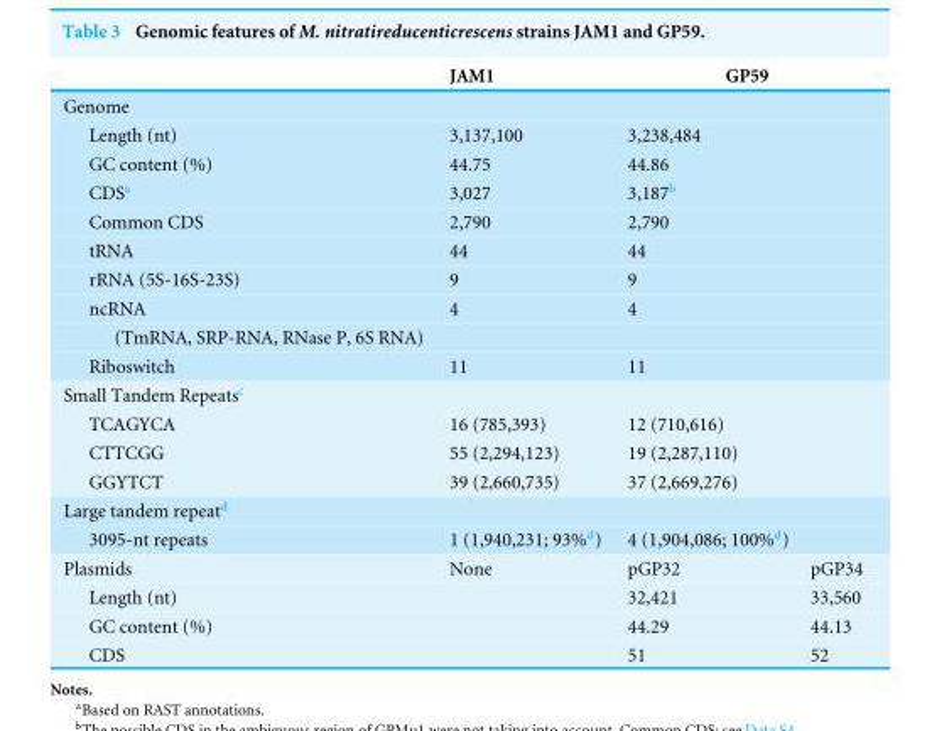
<table><thead><tr><td rowspan="2">Genome</td><td rowspan="2">JAM1</td><td colspan="2">GP59</td></tr><tr><td></td><td></td></tr></thead><tbody><tr><td>Length (nt)</td><td>3,137,100</td><td>3,238,484</td><td></td></tr><tr><td>GC content (%)</td><td>44.75</td><td>44.86</td><td></td></tr><tr><td>CDS<sup>a</sup></td><td>3,027</td><td>3,187<sup>b</sup></td><td></td></tr><tr><td>Common CDS</td><td>2,790</td><td>2,790</td><td></td></tr><tr><td>tRNA</td><td>44</td><td>44</td><td></td></tr><tr><td>rRNA (5S-16S-23S)</td><td>9</td><td>9</td><td></td></tr><tr><td>ncRNA</td><td>4</td><td>4</td><td></td></tr><tr><td colspan="4">(TmRNA, SRP-RNA, RNase P, 6S RNA)</td></tr><tr><td>Riboswitch</td><td>11</td><td>11</td><td></td></tr><tr><td colspan="4">Small Tandem Repeats<sup>c</sup></td></tr><tr><td>TCAGYCA</td><td>16 (785,393)</td><td>12 (710,616)</td><td></td></tr><tr><td>CTTCGG</td><td>55 (2,294,123)</td><td>19 (2,287,110)</td><td></td></tr><tr><td>GGYTCT</td><td>39 (2,660,735)</td><td>37 (2,669,276)</td><td></td></tr><tr><td colspan="4">Large tandem repeat<sup>d</sup></td></tr><tr><td>3095-nt repeats</td><td>1 (1,940,231; 93%<sup>d</sup>)</td><td>4 (1,904,086; 100%<sup>d</sup>)</td><td></td></tr><tr><td>Plasmids</td><td>None</td><td>pGP32</td><td>pGP34</td></tr><tr><td>Length (nt)</td><td></td><td>32,421</td><td>33,560</td></tr><tr><td>GC content (%)</td><td></td><td>44.29</td><td>44.13</td></tr><tr><td>CDS</td><td></td><td>51</td><td>52</td></tr></tbody></table>